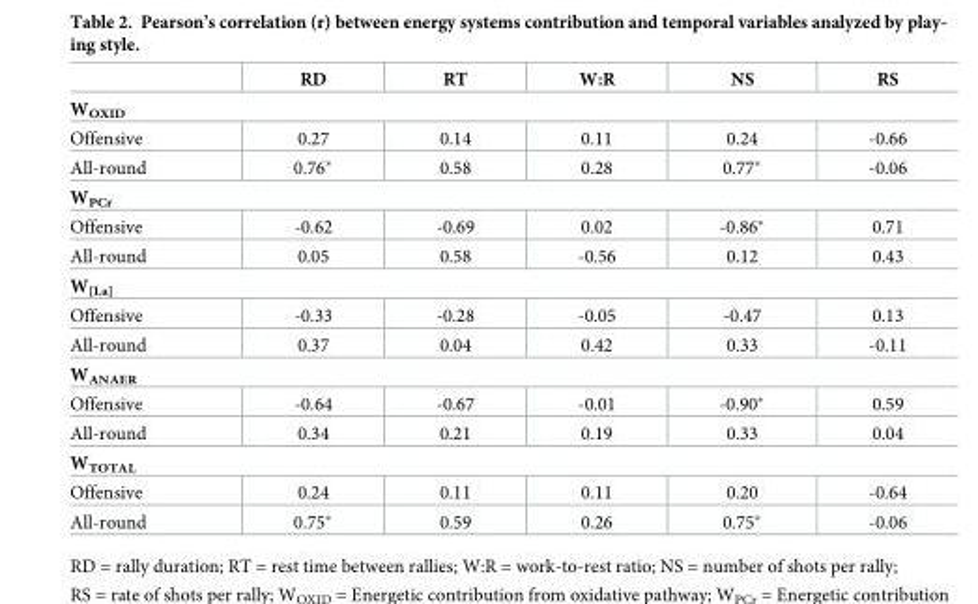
<table><thead><tr><td></td><td>RD</td><td>RT</td><td>W:R</td><td>NS</td><td>RS</td></tr></thead><tbody><tr><td colspan="6">W<sub>OXID</sub></td></tr><tr><td>Offensive</td><td>0.27</td><td>0.14</td><td>0.11</td><td>0.24</td><td>-0.66</td></tr><tr><td>All-round</td><td>0.76*</td><td>0.58</td><td>0.28</td><td>0.77*</td><td>-0.06</td></tr><tr><td colspan="6">W<sub>PCr</sub></td></tr><tr><td>Offensive</td><td>-0.62</td><td>-0.69</td><td>0.02</td><td>-0.86*</td><td>0.71</td></tr><tr><td>All-round</td><td>0.05</td><td>0.58</td><td>-0.56</td><td>0.12</td><td>0.43</td></tr><tr><td colspan="6">W<sub>[La]</sub></td></tr><tr><td>Offensive</td><td>-0.33</td><td>-0.28</td><td>-0.05</td><td>-0.47</td><td>0.13</td></tr><tr><td>All-round</td><td>0.37</td><td>0.04</td><td>0.42</td><td>0.33</td><td>-0.11</td></tr><tr><td colspan="6">W<sub>ANAER</sub></td></tr><tr><td>Offensive</td><td>-0.64</td><td>-0.67</td><td>-0.01</td><td>-0.90*</td><td>0.59</td></tr><tr><td>All-round</td><td>0.34</td><td>0.21</td><td>0.19</td><td>0.33</td><td>0.04</td></tr><tr><td colspan="6">W<sub>TOTAL</sub></td></tr><tr><td>Offensive</td><td>0.24</td><td>0.11</td><td>0.11</td><td>0.20</td><td>-0.64</td></tr><tr><td>All-round</td><td>0.75*</td><td>0.59</td><td>0.26</td><td>0.75*</td><td>-0.06</td></tr></tbody></table>